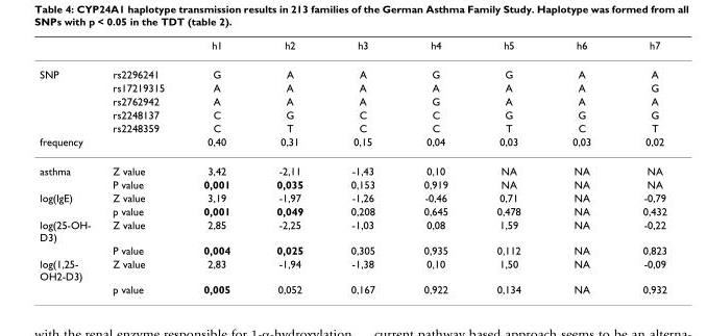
<table><thead><tr><td></td><td></td><td>h1</td><td>h2</td><td>h3</td><td>h4</td><td>h5</td><td>h6</td><td>h7</td></tr></thead><tbody><tr><td rowspan="5">SNP</td><td>rs2296241</td><td>G</td><td>A</td><td>A</td><td>G</td><td>G</td><td>A</td><td>A</td></tr><tr><td>rs17219315</td><td>A</td><td>A</td><td>A</td><td>A</td><td>A</td><td>A</td><td>G</td></tr><tr><td>rs2762942</td><td>A</td><td>A</td><td>A</td><td>G</td><td>A</td><td>A</td><td>A</td></tr><tr><td>rs2248137</td><td>C</td><td>G</td><td>C</td><td>C</td><td>G</td><td>G</td><td>G</td></tr><tr><td>rs2248359</td><td>C</td><td>T</td><td>C</td><td>C</td><td>T</td><td>C</td><td>T</td></tr><tr><td>frequency</td><td></td><td>0,40</td><td>0,31</td><td>0,15</td><td>0,04</td><td>0,03</td><td>0,03</td><td>0,02</td></tr><tr><td rowspan="2">asthma</td><td>Z value</td><td>3,42</td><td>-2,11</td><td>-1,43</td><td>0,10</td><td>NA</td><td>NA</td><td>NA</td></tr><tr><td>P value</td><td>0,001</td><td>0,035</td><td>0,153</td><td>0,919</td><td>NA</td><td>NA</td><td>NA</td></tr><tr><td rowspan="2">log(IgE)</td><td>Z value</td><td>3,19</td><td>-1,97</td><td>-1,26</td><td>-0,46</td><td>0,71</td><td>NA</td><td>-0,79</td></tr><tr><td>p value</td><td>0,001</td><td>0,049</td><td>0,208</td><td>0,645</td><td>0,478</td><td>NA</td><td>0,432</td></tr><tr><td rowspan="2">log(25-OH- D3)</td><td>Z value</td><td>2,85</td><td>-2,25</td><td>-1,03</td><td>0,08</td><td>1,59</td><td>NA</td><td>-0,22</td></tr><tr><td>P value</td><td>0,004</td><td>0,025</td><td>0,305</td><td>0,935</td><td>0,112</td><td>NA</td><td>0,823</td></tr><tr><td rowspan="2">log(1,25- OH2-D3)</td><td>Z value</td><td>2,83</td><td>-1,94</td><td>-1,38</td><td>0,10</td><td>1,50</td><td>NA</td><td>-0,09</td></tr><tr><td>p value</td><td>0,005</td><td>0,052</td><td>0,167</td><td>0,922</td><td>0,134</td><td>NA</td><td>0,932</td></tr></tbody></table>